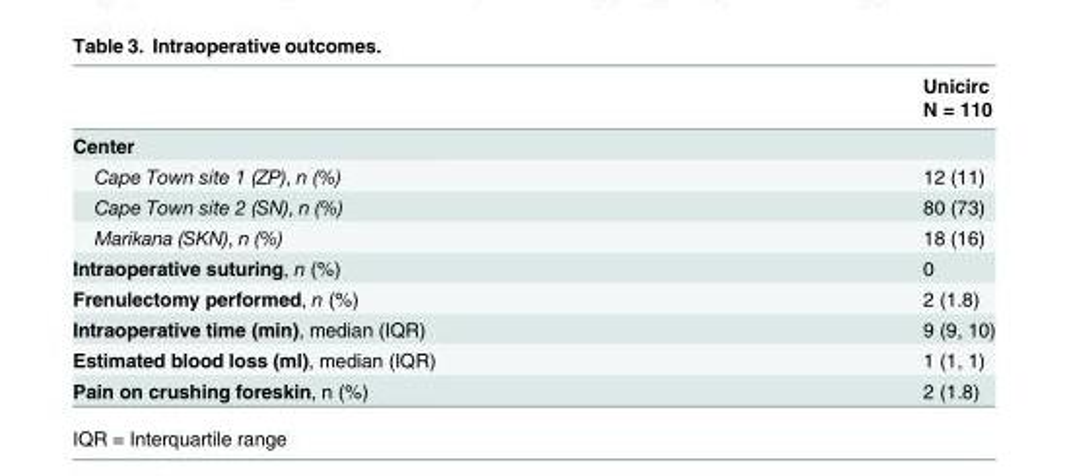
<table><thead><tr><td rowspan="2"></td><td rowspan="2">Unicirc N = 110</td></tr><tr></tr></thead><tbody><tr><td colspan="2">Center</td></tr><tr><td>Cape Town site 1 (ZP), n (%)</td><td>12 (11)</td></tr><tr><td>Cape Town site 2 (SN), n (%)</td><td>80 (73)</td></tr><tr><td>Marikana (SKN), n (%)</td><td>18 (16)</td></tr><tr><td>Intraoperative suturing, n (%)</td><td>0</td></tr><tr><td>Frenulectomy performed, n (%)</td><td>2 (1.8)</td></tr><tr><td>Intraoperative time (min), median (IQR)</td><td>9 (9, 10)</td></tr><tr><td>Estimated blood loss (ml), median (IQR)</td><td>1 (1, 1)</td></tr><tr><td>Pain on crushing foreskin, n (%)</td><td>2 (1.8)</td></tr></tbody></table>